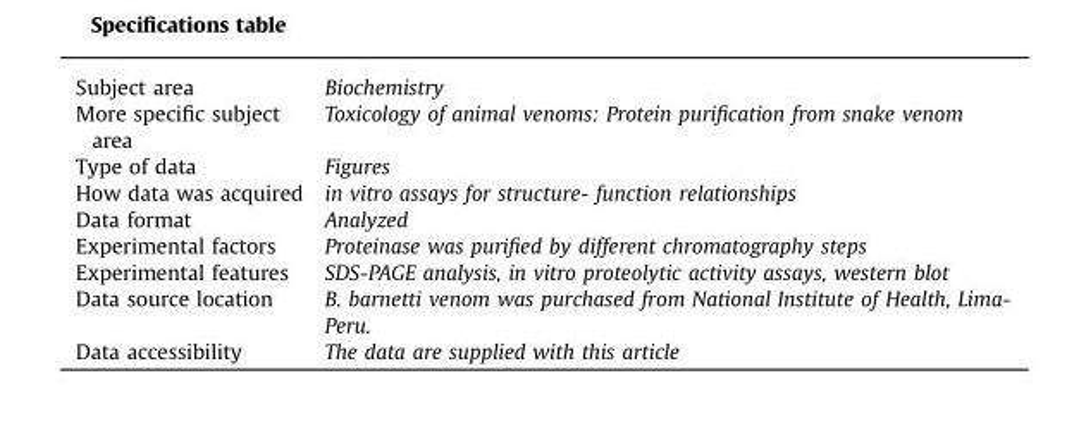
<table><tbody><tr><td>Subject area</td><td>Biochemistry</td></tr><tr><td>More specific subject area</td><td>Toxicology of animal venoms: Protein purification from snake venom</td></tr><tr><td>Type of data</td><td>Figures</td></tr><tr><td>How data was acquired</td><td>in vitro assays for structure- function relationships</td></tr><tr><td>Data format</td><td>Analyzed</td></tr><tr><td>Experimental factors</td><td>Proteinase was purified by different chromatography steps</td></tr><tr><td>Experimental features</td><td>SDS-PAGE analysis, in vitro proteolytic activity assays, western blot</td></tr><tr><td>Data source location</td><td>B. barnetti venom was purchased from National Institute of Health, Lima- Peru.</td></tr><tr><td>Data accessibility</td><td>The data are supplied with this article</td></tr></tbody></table>